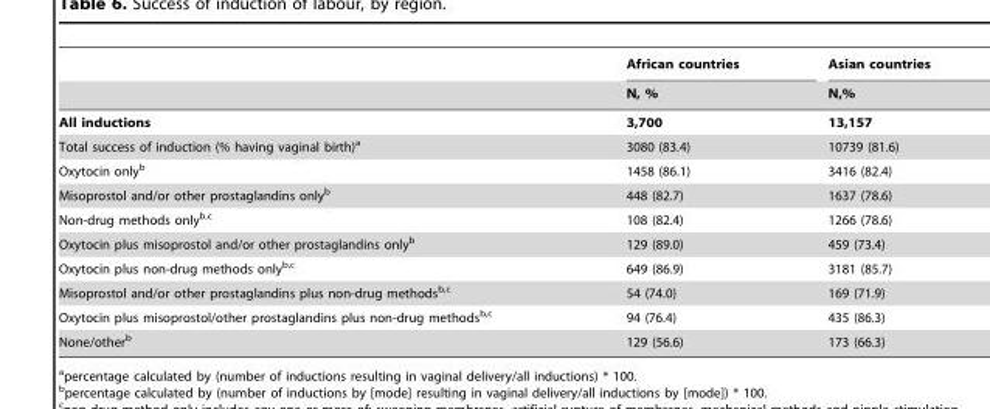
<table><thead><tr><td rowspan="2"></td><td rowspan="2">African countries N, %</td><td rowspan="2">Asian countries N,%</td></tr><tr></tr></thead><tbody><tr><td>All inductions</td><td>3,700</td><td>13,157</td></tr><tr><td>Total success of induction (% having vaginal birth)<sup>a</sup></td><td>3080 (83.4)</td><td>10739 (81.6)</td></tr><tr><td>Oxytocin only<sup>b</sup></td><td>1458 (86.1)</td><td>3416 (82.4)</td></tr><tr><td>Misoprostol and/or other prostaglandins only<sup>b</sup></td><td>448 (82.7)</td><td>1637 (78.6)</td></tr><tr><td>Non-drug methods only<sup>b,</sup>c</td><td>108 (82.4)</td><td>1266 (78.6)</td></tr><tr><td>Oxytocin plus misoprostol and/or other prostaglandins only<sup>b</sup></td><td>129 (89.0)</td><td>459 (73.4)</td></tr><tr><td>Oxytocin plus non-drug methods only<sup>b,</sup>c</td><td>649 (86.9)</td><td>3181 (85.7)</td></tr><tr><td>Misoprostol and/or other prostaglandins plus non-drug methods<sup>b,</sup>c</td><td>54 (74.0)</td><td>169 (71.9)</td></tr><tr><td>Oxytocin plus misoprostol/other prostaglandins plus non-drug methods<sup>b,</sup>c</td><td>94 (76.4)</td><td>435 (86.3)</td></tr><tr><td>None/other<sup>b</sup></td><td>129 (56.6)</td><td>173 (66.3)</td></tr></tbody></table>